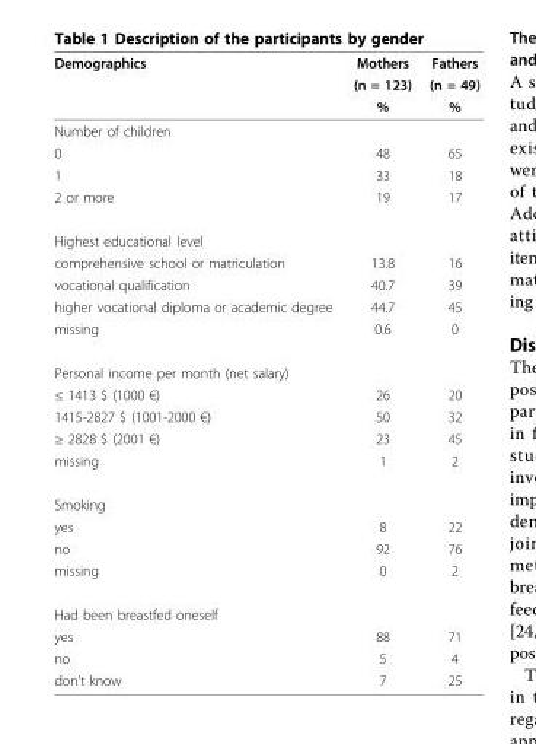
<table><thead><tr><td rowspan="3">Demographics</td><td rowspan="3">Mothers (n = 123) %</td><td rowspan="3">Fathers (n = 49) %</td></tr><tr></tr><tr></tr></thead><tbody><tr><td colspan="3">Number of children</td></tr><tr><td>0</td><td>48</td><td>65</td></tr><tr><td>1</td><td>33</td><td>18</td></tr><tr><td>2 or more</td><td>19</td><td>17</td></tr><tr><td colspan="3">Highest educational level</td></tr><tr><td>comprehensive school or matriculation</td><td>13.8</td><td>16</td></tr><tr><td>vocational qualification</td><td>40.7</td><td>39</td></tr><tr><td>higher vocational diploma or academic degree</td><td>44.7</td><td>45</td></tr><tr><td>missing</td><td>0.6</td><td>0</td></tr><tr><td colspan="3">Personal income per month (net salary)</td></tr><tr><td>≤ 1413 $ (1000 €)</td><td>26</td><td>20</td></tr><tr><td>1415-2827 $ (1001-2000 €)</td><td>50</td><td>32</td></tr><tr><td>≥ 2828 $ (2001 €)</td><td>23</td><td>45</td></tr><tr><td>missing</td><td>1</td><td>2</td></tr><tr><td colspan="3">Smoking</td></tr><tr><td>yes</td><td>8</td><td>22</td></tr><tr><td>no</td><td>92</td><td>76</td></tr><tr><td>missing</td><td>0</td><td>2</td></tr><tr><td colspan="3">Had been breastfed oneself</td></tr><tr><td>yes</td><td>88</td><td>71</td></tr><tr><td>no</td><td>5</td><td>4</td></tr><tr><td>don’t know</td><td>7</td><td>25</td></tr></tbody></table>